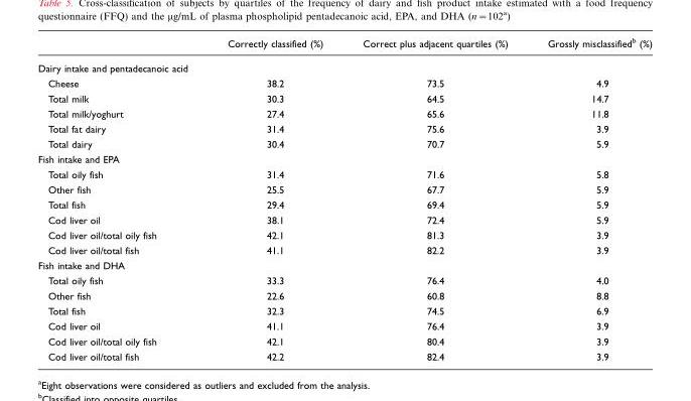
<table><thead><tr><td></td><td>Correctly classified (%)</td><td>Correct plus adjacent quartiles (%)</td><td>Grossly misclassified<sup>b</sup> (%)</td></tr></thead><tbody><tr><td colspan="4">Dairy intake and pentadecanoic acid</td></tr><tr><td>Cheese</td><td>38.2</td><td>73.5</td><td>4.9</td></tr><tr><td>Total milk</td><td>30.3</td><td>64.5</td><td>14.7</td></tr><tr><td>Total milk/yoghurt</td><td>27.4</td><td>65.6</td><td>11.8</td></tr><tr><td>Total fat dairy</td><td>31.4</td><td>75.6</td><td>3.9</td></tr><tr><td>Total dairy</td><td>30.4</td><td>70.7</td><td>5.9</td></tr><tr><td colspan="4">Fish intake and EPA</td></tr><tr><td>Total oily fish</td><td>31.4</td><td>71.6</td><td>5.8</td></tr><tr><td>Other fish</td><td>25.5</td><td>67.7</td><td>5.9</td></tr><tr><td>Total fish</td><td>29.4</td><td>69.4</td><td>5.9</td></tr><tr><td>Cod liver oil</td><td>38.1</td><td>72.4</td><td>5.9</td></tr><tr><td>Cod liver oil/total oily fish</td><td>42.1</td><td>81.3</td><td>3.9</td></tr><tr><td>Cod liver oil/total fish</td><td>41.1</td><td>82.2</td><td>3.9</td></tr><tr><td colspan="4">Fish intake and DHA</td></tr><tr><td>Total oily fish</td><td>33.3</td><td>76.4</td><td>4.0</td></tr><tr><td>Other fish</td><td>22.6</td><td>60.8</td><td>8.8</td></tr><tr><td>Total fish</td><td>32.3</td><td>74.5</td><td>6.9</td></tr><tr><td>Cod liver oil</td><td>41.1</td><td>76.4</td><td>3.9</td></tr><tr><td>Cod liver oil/total oily fish</td><td>42.1</td><td>80.4</td><td>3.9</td></tr><tr><td>Cod liver oil/total fish</td><td>42.2</td><td>82.4</td><td>3.9</td></tr></tbody></table>